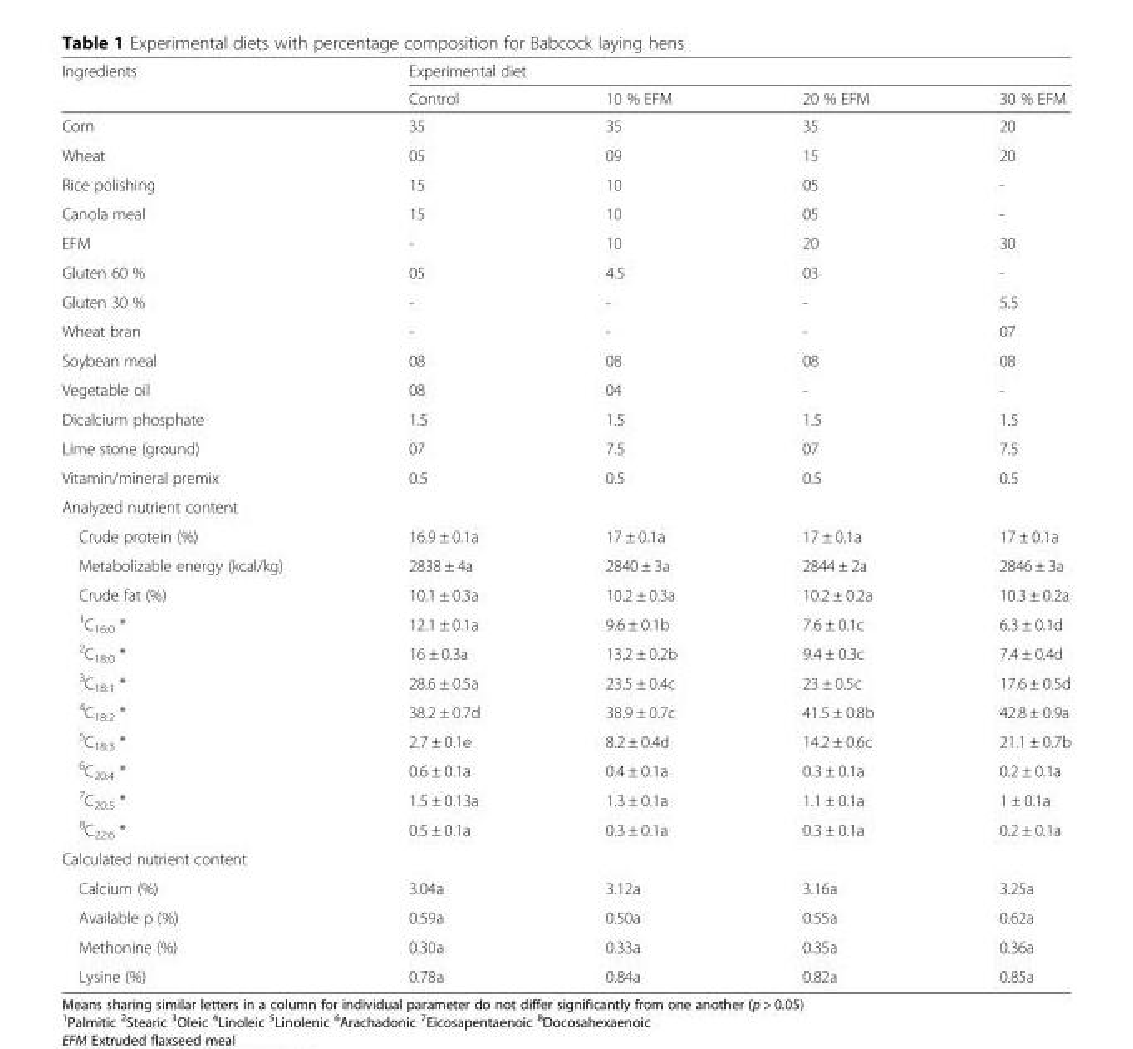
<table><thead><tr><td rowspan="2">Ingredients</td><td colspan="4">Experimental diet</td></tr><tr><td>Control</td><td>10 % EFM</td><td>20 % EFM</td><td>30 % EFM</td></tr></thead><tbody><tr><td>Corn</td><td>35</td><td>35</td><td>35</td><td>20</td></tr><tr><td>Wheat</td><td>05</td><td>09</td><td>15</td><td>20</td></tr><tr><td>Rice polishing</td><td>15</td><td>10</td><td>05</td><td>-</td></tr><tr><td>Canola meal</td><td>15</td><td>10</td><td>05</td><td>-</td></tr><tr><td>EFM</td><td>-</td><td>10</td><td>20</td><td>30</td></tr><tr><td>Gluten 60 %</td><td>05</td><td>4.5</td><td>03</td><td>-</td></tr><tr><td>Gluten 30 %</td><td>-</td><td>-</td><td>-</td><td>5.5</td></tr><tr><td>Wheat bran</td><td>-</td><td>-</td><td>-</td><td>07</td></tr><tr><td>Soybean meal</td><td>08</td><td>08</td><td>08</td><td>08</td></tr><tr><td>Vegetable oil</td><td>08</td><td>04</td><td>-</td><td>-</td></tr><tr><td>Dicalcium phosphate</td><td>1.5</td><td>1.5</td><td>1.5</td><td>1.5</td></tr><tr><td>Lime stone (ground)</td><td>07</td><td>7.5</td><td>07</td><td>7.5</td></tr><tr><td>Vitamin/mineral premix</td><td>0.5</td><td>0.5</td><td>0.5</td><td>0.5</td></tr><tr><td colspan="5">Analyzed nutrient content</td></tr><tr><td>Crude protein (%)</td><td>16.9 ± 0.1a</td><td>17 ± 0.1a</td><td>17 ± 0.1a</td><td>17 ± 0.1a</td></tr><tr><td>Metabolizable energy (kcal/kg)</td><td>2838 ± 4a</td><td>2840 ± 3a</td><td>2844 ± 2a</td><td>2846 ± 3a</td></tr><tr><td>Crude fat (%)</td><td>10.1 ± 0.3a</td><td>10.2 ± 0.3a</td><td>10.2 ± 0.2a</td><td>10.3 ± 0.2a</td></tr><tr><td><sup>1</sup>C<sub>16:0</sub> *</td><td>12.1 ± 0.1a</td><td>9.6 ± 0.1b</td><td>7.6 ± 0.1c</td><td>6.3 ± 0.1d</td></tr><tr><td><sup>2</sup>C<sub>18:0</sub> *</td><td>16 ± 0.3a</td><td>13.2 ± 0.2b</td><td>9.4 ± 0.3c</td><td>7.4 ± 0.4d</td></tr><tr><td><sup>3</sup>C<sub>18:1</sub> *</td><td>28.6 ± 0.5a</td><td>23.5 ± 0.4c</td><td>23 ± 0.5c</td><td>17.6 ± 0.5d</td></tr><tr><td><sup>4</sup>C<sub>18:2</sub> *</td><td>38.2 ± 0.7d</td><td>38.9 ± 0.7c</td><td>41.5 ± 0.8b</td><td>42.8 ± 0.9a</td></tr><tr><td><sup>5</sup>C<sub>18:3</sub> *</td><td>2.7 ± 0.1e</td><td>8.2 ± 0.4d</td><td>14.2 ± 0.6c</td><td>21.1 ± 0.7b</td></tr><tr><td><sup>6</sup>C<sub>20:4</sub> *</td><td>0.6 ± 0.1a</td><td>0.4 ± 0.1a</td><td>0.3 ± 0.1a</td><td>0.2 ± 0.1a</td></tr><tr><td><sup>7</sup>C<sub>20:5</sub> *</td><td>1.5 ± 0.13a</td><td>1.3 ± 0.1a</td><td>1.1 ± 0.1a</td><td>1 ± 0.1a</td></tr><tr><td><sup>8</sup>C<sub>22:6</sub> *</td><td>0.5 ± 0.1a</td><td>0.3 ± 0.1a</td><td>0.3 ± 0.1a</td><td>0.2 ± 0.1a</td></tr><tr><td colspan="5">Calculated nutrient content</td></tr><tr><td>Calcium (%)</td><td>3.04a</td><td>3.12a</td><td>3.16a</td><td>3.25a</td></tr><tr><td>Available p (%)</td><td>0.59a</td><td>0.50a</td><td>0.55a</td><td>0.62a</td></tr><tr><td>Methonine (%)</td><td>0.30a</td><td>0.33a</td><td>0.35a</td><td>0.36a</td></tr><tr><td>Lysine (%)</td><td>0.78a</td><td>0.84a</td><td>0.82a</td><td>0.85a</td></tr></tbody></table>